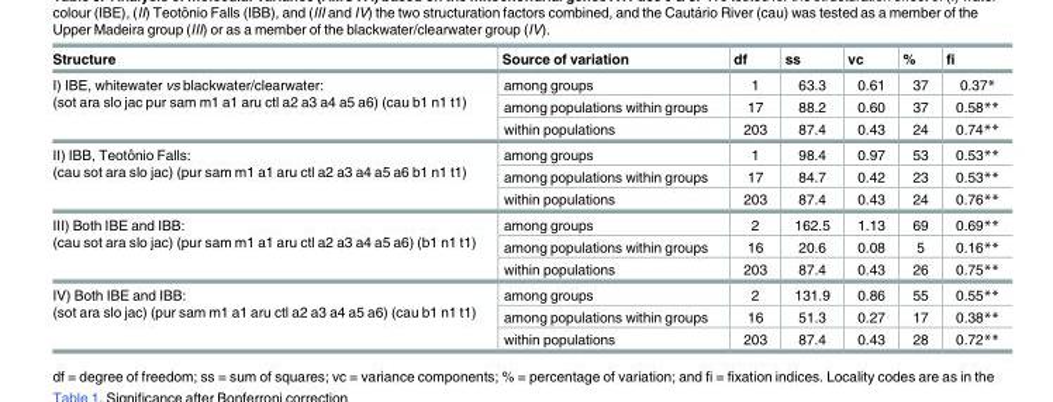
<table><thead><tr><td>Structure</td><td>Source of variation</td><td>df</td><td>ss</td><td>vc</td><td>%</td><td>fi</td></tr></thead><tbody><tr><td rowspan="3">I) IBE, whitewater vs blackwater/clearwater: (sot ara slo jac pur sam m1 a1 aru ctl a2 a3 a4 a5 a6) (cau b1 n1 t1)</td><td>among groups</td><td>1</td><td>63.3</td><td>0.61</td><td>37</td><td>0.37*</td></tr><tr><td>among populations within groups</td><td>17</td><td>88.2</td><td>0.60</td><td>37</td><td>0.58**</td></tr><tr><td>within populations</td><td>203</td><td>87.4</td><td>0.43</td><td>24</td><td>0.74**</td></tr><tr><td rowspan="3">II) IBB, Teotoˆnio Falls: (cau sot ara slo jac) (pur sam m1 a1 aru ctl a2 a3 a4 a5 a6 b1 n1 t1)</td><td>among groups</td><td>1</td><td>98.4</td><td>0.97</td><td>53</td><td>0.53**</td></tr><tr><td>among populations within groups</td><td>17</td><td>84.7</td><td>0.42</td><td>23</td><td>0.53**</td></tr><tr><td>within populations</td><td>203</td><td>87.4</td><td>0.43</td><td>24</td><td>0.76**</td></tr><tr><td rowspan="3">III) Both IBE and IBB: (cau sot ara slo jac) (pur sam m1 a1 aru ctl a2 a3 a4 a5 a6) (b1 n1 t1)</td><td>among groups</td><td>2</td><td>162.5</td><td>1.13</td><td>69</td><td>0.69**</td></tr><tr><td>among populations within groups</td><td>16</td><td>20.6</td><td>0.08</td><td>5</td><td>0.16**</td></tr><tr><td>within populations</td><td>203</td><td>87.4</td><td>0.43</td><td>26</td><td>0.75**</td></tr><tr><td rowspan="3">IV) Both IBE and IBB: (sot ara slo jac) (pur sam m1 a1 aru ctl a2 a3 a4 a5 a6) (cau b1 n1 t1)</td><td>among groups</td><td>2</td><td>131.9</td><td>0.86</td><td>55</td><td>0.55**</td></tr><tr><td>among populations within groups</td><td>16</td><td>51.3</td><td>0.27</td><td>17</td><td>0.38**</td></tr><tr><td>within populations</td><td>203</td><td>87.4</td><td>0.43</td><td>28</td><td>0.72**</td></tr></tbody></table>